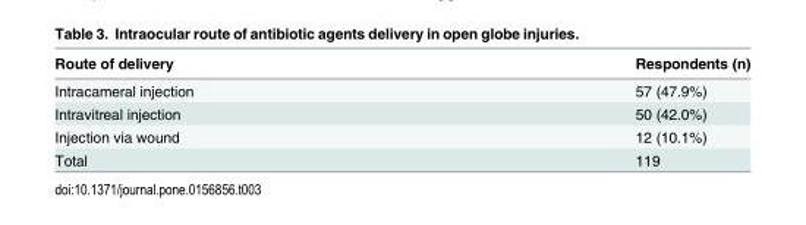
<table><thead><tr><td>Route of delivery</td><td>Respondents (n)</td></tr></thead><tbody><tr><td>Intracameral injection</td><td>57 (47.9%)</td></tr><tr><td>Intravitreal injection</td><td>50 (42.0%)</td></tr><tr><td>Injection via wound</td><td>12 (10.1%)</td></tr><tr><td>Total</td><td>119</td></tr></tbody></table>